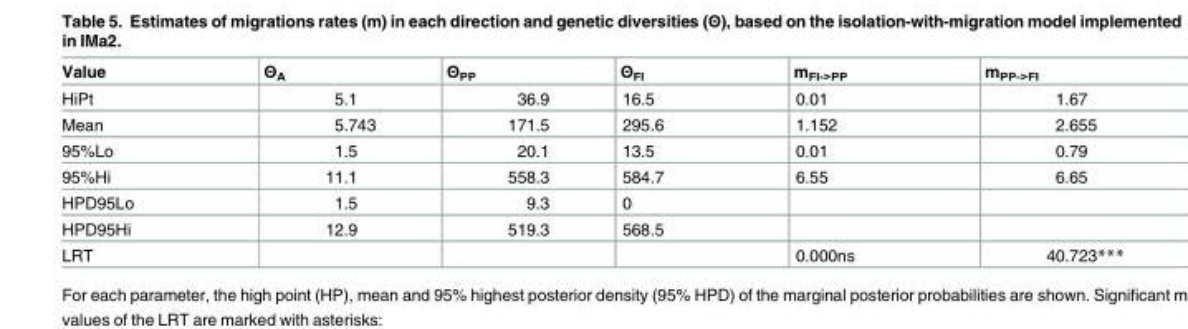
<table><thead><tr><td>Value</td><td>Θ<sub>A</sub></td><td>Θ<sub>PP</sub></td><td>Θ<sub>FI</sub></td><td>m<sub>FI-&gt;PP</sub></td><td>m<sub>PP-&gt;FI</sub></td></tr></thead><tbody><tr><td>HiPt</td><td>5.1</td><td>36.9</td><td>16.5</td><td>0.01</td><td>1.67</td></tr><tr><td>Mean</td><td>5.743</td><td>171.5</td><td>295.6</td><td>1.152</td><td>2.655</td></tr><tr><td>95%Lo</td><td>1.5</td><td>20.1</td><td>13.5</td><td>0.01</td><td>0.79</td></tr><tr><td>95%Hi</td><td>11.1</td><td>558.3</td><td>584.7</td><td>6.55</td><td>6.65</td></tr><tr><td>HPD95Lo</td><td>1.5</td><td>9.3</td><td>0</td><td></td><td></td></tr><tr><td>HPD95Hi</td><td>12.9</td><td>519.3</td><td>568.5</td><td></td><td></td></tr><tr><td>LRT</td><td></td><td></td><td></td><td>0.000ns</td><td>40.723***</td></tr></tbody></table>